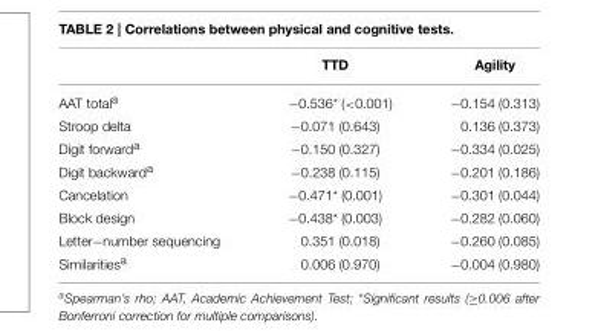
<table><thead><tr><td></td><td>TTD</td><td>Agility</td></tr></thead><tbody><tr><td>AAT total<sup>a</sup></td><td>−0.536* (&lt;0.001)</td><td>−0.154 (0.313)</td></tr><tr><td>Stroop delta</td><td>−0.071 (0.643)</td><td>0.136 (0.373)</td></tr><tr><td>Digit forward<sup>a</sup></td><td>−0.150 (0.327)</td><td>−0.334 (0.025)</td></tr><tr><td>Digit backward<sup>a</sup></td><td>−0.238 (0.115)</td><td>−0.201 (0.186)</td></tr><tr><td>Cancelation</td><td>−0.471* (0.001)</td><td>−0.301 (0.044)</td></tr><tr><td>Block design</td><td>−0.438* (0.003)</td><td>−0.282 (0.060)</td></tr><tr><td>Letter−number sequencing</td><td>0.351 (0.018)</td><td>−0.260 (0.085)</td></tr><tr><td>Similarities<sup>a</sup></td><td>0.006 (0.970)</td><td>−0.004 (0.980)</td></tr></tbody></table>